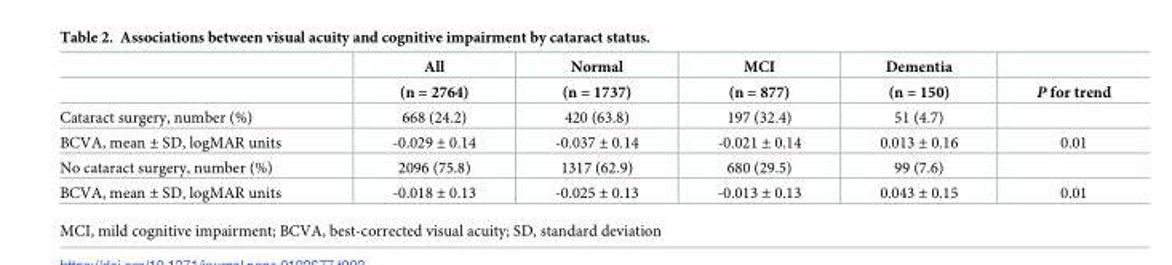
<table><thead><tr><td rowspan="2"></td><td rowspan="2">All (n = 2764)</td><td rowspan="2">Normal (n = 1737)</td><td rowspan="2">MCI (n = 877)</td><td rowspan="2">Dementia (n = 150)</td><td rowspan="2">P for trend</td></tr><tr></tr></thead><tbody><tr><td>Cataract surgery, number (%)</td><td>668 (24.2)</td><td>420 (63.8)</td><td>197 (32.4)</td><td>51 (4.7)</td><td></td></tr><tr><td>BCVA, mean ± SD, logMAR units</td><td>-0.029 ± 0.14</td><td>-0.037 ± 0.14</td><td>-0.021 ± 0.14</td><td>0.013 ± 0.16</td><td>0.01</td></tr><tr><td>No cataract surgery, number (%)</td><td>2096 (75.8)</td><td>1317 (62.9)</td><td>680 (29.5)</td><td>99 (7.6)</td><td></td></tr><tr><td>BCVA, mean ± SD, logMAR units</td><td>-0.018 ± 0.13</td><td>-0.025 ± 0.13</td><td>-0.013 ± 0.13</td><td>0.043 ± 0.15</td><td>0.01</td></tr></tbody></table>